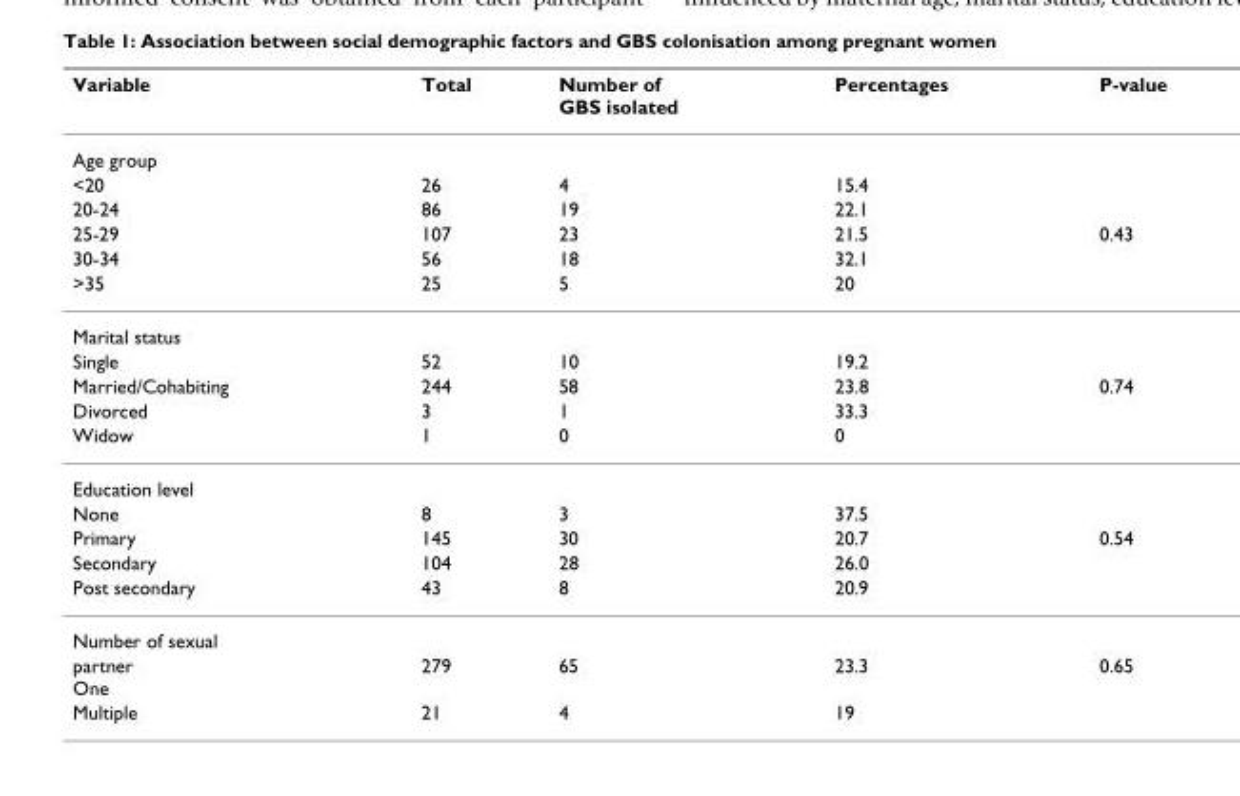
<table><thead><tr><td>Variable</td><td>Total</td><td>Number of GBS isolated</td><td>Percentages</td><td>P-value</td></tr></thead><tbody><tr><td colspan="5">Age group</td></tr><tr><td>&lt;20</td><td>26</td><td>4</td><td>15.4</td><td></td></tr><tr><td>20-24</td><td>86</td><td>19</td><td>22.1</td><td></td></tr><tr><td>25-29</td><td>107</td><td>23</td><td>21.5</td><td>0.43</td></tr><tr><td>30-34</td><td>56</td><td>18</td><td>32.1</td><td></td></tr><tr><td>&gt;35</td><td>25</td><td>5</td><td>20</td><td></td></tr><tr><td colspan="5">Marital status</td></tr><tr><td>Single</td><td>52</td><td>10</td><td>19.2</td><td></td></tr><tr><td>Married/Cohabiting</td><td>244</td><td>58</td><td>23.8</td><td>0.74</td></tr><tr><td>Divorced</td><td>3</td><td>1</td><td>33.3</td><td></td></tr><tr><td>Widow</td><td>1</td><td>0</td><td>0</td><td></td></tr><tr><td colspan="5">Education level</td></tr><tr><td>None</td><td>8</td><td>3</td><td>37.5</td><td></td></tr><tr><td>Primary</td><td>145</td><td>30</td><td>20.7</td><td>0.54</td></tr><tr><td>Secondary</td><td>104</td><td>28</td><td>26.0</td><td></td></tr><tr><td>Post secondary</td><td>43</td><td>8</td><td>20.9</td><td></td></tr><tr><td colspan="5">Number of sexual</td></tr><tr><td>partner One</td><td>279</td><td>65</td><td>23.3</td><td>0.65</td></tr><tr><td>Multiple</td><td>21</td><td>4</td><td>19</td><td></td></tr></tbody></table>